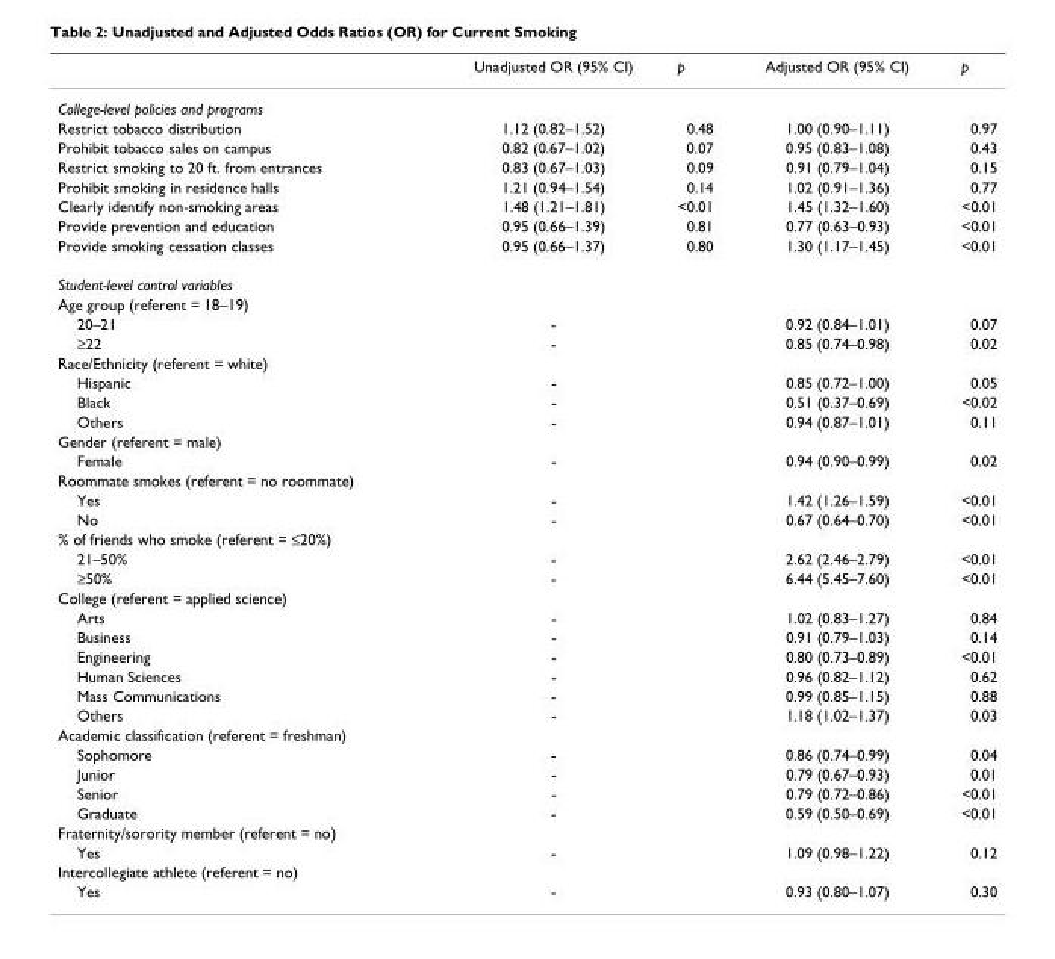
<table><thead><tr><td></td><td>Unadjusted OR (95% CI)</td><td>p</td><td>Adjusted OR (95% CI)</td><td>p</td></tr></thead><tbody><tr><td colspan="5">College-level policies and programs</td></tr><tr><td>Restrict tobacco distribution</td><td>1.12 (0.82–1.52)</td><td>0.48</td><td>1.00 (0.90–1.11)</td><td>0.97</td></tr><tr><td>Prohibit tobacco sales on campus</td><td>0.82 (0.67–1.02)</td><td>0.07</td><td>0.95 (0.83–1.08)</td><td>0.43</td></tr><tr><td>Restrict smoking to 20 ft. from entrances</td><td>0.83 (0.67–1.03)</td><td>0.09</td><td>0.91 (0.79–1.04)</td><td>0.15</td></tr><tr><td>Prohibit smoking in residence halls</td><td>1.21 (0.94–1.54)</td><td>0.14</td><td>1.02 (0.91–1.36)</td><td>0.77</td></tr><tr><td>Clearly identify non-smoking areas</td><td>1.48 (1.21–1.81)</td><td>&lt;0.01</td><td>1.45 (1.32–1.60)</td><td>&lt;0.01</td></tr><tr><td>Provide prevention and education</td><td>0.95 (0.66–1.39)</td><td>0.81</td><td>0.77 (0.63–0.93)</td><td>&lt;0.01</td></tr><tr><td>Provide smoking cessation classes</td><td>0.95 (0.66–1.37)</td><td>0.80</td><td>1.30 (1.17–1.45)</td><td>&lt;0.01</td></tr><tr><td colspan="5">Student-level control variables</td></tr><tr><td colspan="5">Age group (referent = 18–19)</td></tr><tr><td>20–21</td><td>-</td><td></td><td>0.92 (0.84–1.01)</td><td>0.07</td></tr><tr><td>≥22</td><td>-</td><td></td><td>0.85 (0.74–0.98)</td><td>0.02</td></tr><tr><td colspan="5">Race/Ethnicity (referent = white)</td></tr><tr><td>Hispanic</td><td>-</td><td></td><td>0.85 (0.72–1.00)</td><td>0.05</td></tr><tr><td>Black</td><td>-</td><td></td><td>0.51 (0.37–0.69)</td><td>&lt;0.02</td></tr><tr><td>Others</td><td>-</td><td></td><td>0.94 (0.87–1.01)</td><td>0.11</td></tr><tr><td colspan="5">Gender (referent = male)</td></tr><tr><td>Female</td><td>-</td><td></td><td>0.94 (0.90–0.99)</td><td>0.02</td></tr><tr><td colspan="5">Roommate smokes (referent = no roommate)</td></tr><tr><td>Yes</td><td>-</td><td></td><td>1.42 (1.26–1.59)</td><td>&lt;0.01</td></tr><tr><td>No</td><td>-</td><td></td><td>0.67 (0.64–0.70)</td><td>&lt;0.01</td></tr><tr><td colspan="5">% of friends who smoke (referent = ≤20%)</td></tr><tr><td>21–50%</td><td>-</td><td></td><td>2.62 (2.46–2.79)</td><td>&lt;0.01</td></tr><tr><td>≥50%</td><td>-</td><td></td><td>6.44 (5.45–7.60)</td><td>&lt;0.01</td></tr><tr><td colspan="5">College (referent = applied science)</td></tr><tr><td>Arts</td><td>-</td><td></td><td>1.02 (0.83–1.27)</td><td>0.84</td></tr><tr><td>Business</td><td>-</td><td></td><td>0.91 (0.79–1.03)</td><td>0.14</td></tr><tr><td>Engineering</td><td>-</td><td></td><td>0.80 (0.73–0.89)</td><td>&lt;0.01</td></tr><tr><td>Human Sciences</td><td>-</td><td></td><td>0.96 (0.82–1.12)</td><td>0.62</td></tr><tr><td>Mass Communications</td><td>-</td><td></td><td>0.99 (0.85–1.15)</td><td>0.88</td></tr><tr><td>Others</td><td>-</td><td></td><td>1.18 (1.02–1.37)</td><td>0.03</td></tr><tr><td colspan="5">Academic classification (referent = freshman)</td></tr><tr><td>Sophomore</td><td>-</td><td></td><td>0.86 (0.74–0.99)</td><td>0.04</td></tr><tr><td>Junior</td><td>-</td><td></td><td>0.79 (0.67–0.93)</td><td>0.01</td></tr><tr><td>Senior</td><td>-</td><td></td><td>0.79 (0.72–0.86)</td><td>&lt;0.01</td></tr><tr><td>Graduate</td><td>-</td><td></td><td>0.59 (0.50–0.69)</td><td>&lt;0.01</td></tr><tr><td colspan="5">Fraternity/sorority member (referent = no)</td></tr><tr><td>Yes</td><td>-</td><td></td><td>1.09 (0.98–1.22)</td><td>0.12</td></tr><tr><td colspan="5">Intercollegiate athlete (referent = no)</td></tr><tr><td>Yes</td><td>-</td><td></td><td>0.93 (0.80–1.07)</td><td>0.30</td></tr></tbody></table>